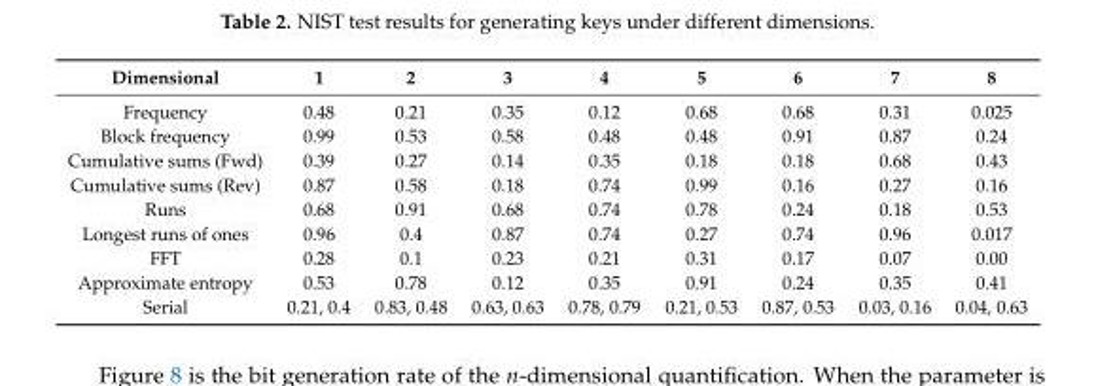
<table><thead><tr><td>Dimensional</td><td>1</td><td>2</td><td>3</td><td>4</td><td>5</td><td>6</td><td>7</td><td>8</td></tr></thead><tbody><tr><td>Frequency</td><td>0.48</td><td>0.21</td><td>0.35</td><td>0.12</td><td>0.68</td><td>0.68</td><td>0.31</td><td>0.025</td></tr><tr><td>Block frequency</td><td>0.99</td><td>0.53</td><td>0.58</td><td>0.48</td><td>0.48</td><td>0.91</td><td>0.87</td><td>0.24</td></tr><tr><td>Cumulative sums (Fwd)</td><td>0.39</td><td>0.27</td><td>0.14</td><td>0.35</td><td>0.18</td><td>0.18</td><td>0.68</td><td>0.43</td></tr><tr><td>Cumulative sums (Rev)</td><td>0.87</td><td>0.58</td><td>0.18</td><td>0.74</td><td>0.99</td><td>0.16</td><td>0.27</td><td>0.16</td></tr><tr><td>Runs</td><td>0.68</td><td>0.91</td><td>0.68</td><td>0.74</td><td>0.78</td><td>0.24</td><td>0.18</td><td>0.53</td></tr><tr><td>Longest runs of ones</td><td>0.96</td><td>0.4</td><td>0.87</td><td>0.74</td><td>0.27</td><td>0.74</td><td>0.96</td><td>0.017</td></tr><tr><td>FFT</td><td>0.28</td><td>0.1</td><td>0.23</td><td>0.21</td><td>0.31</td><td>0.17</td><td>0.07</td><td>0.00</td></tr><tr><td>Approximate entropy</td><td>0.53</td><td>0.78</td><td>0.12</td><td>0.35</td><td>0.91</td><td>0.24</td><td>0.35</td><td>0.41</td></tr><tr><td>Serial</td><td>0.21, 0.4</td><td>0.83, 0.48</td><td>0.63, 0.63</td><td>0.78, 0.79</td><td>0.21, 0.53</td><td>0.87, 0.53</td><td>0.03, 0.16</td><td>0.04, 0.63</td></tr></tbody></table>